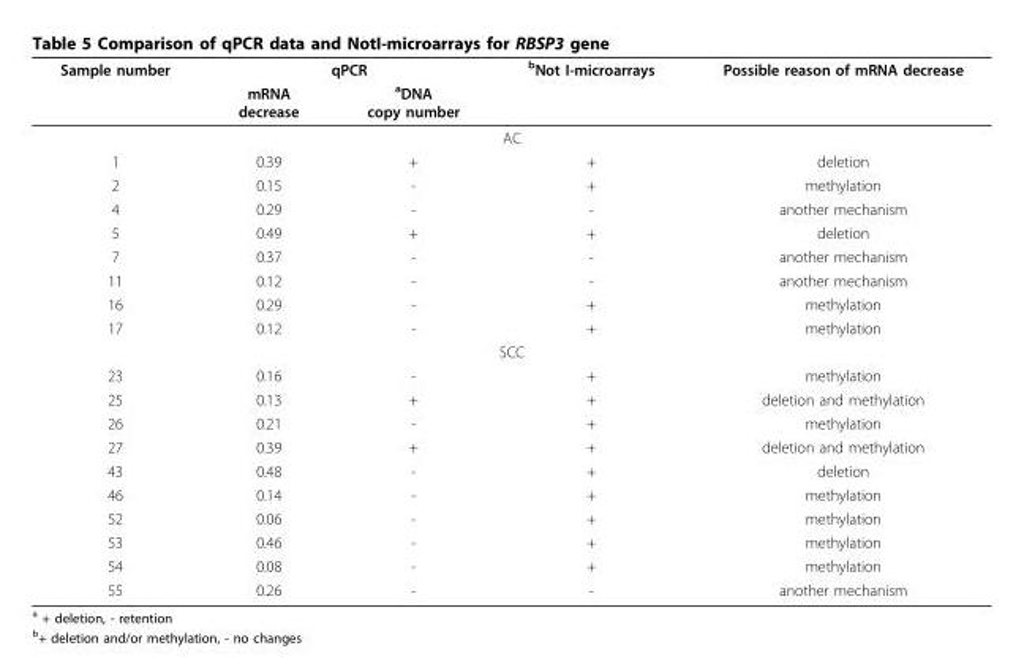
<table><thead><tr><td rowspan="2">Sample number</td><td colspan="2">qPCR</td><td rowspan="2"><sup>b</sup>Not I-microarrays</td><td rowspan="2">Possible reason of mRNA decrease</td></tr><tr><td>mRNA decrease</td><td><sup>a</sup>DNA copy number</td></tr></thead><tbody><tr><td colspan="5">AC</td></tr><tr><td>1</td><td>0.39</td><td>+</td><td>+</td><td>deletion</td></tr><tr><td>2</td><td>0.15</td><td>-</td><td>+</td><td>methylation</td></tr><tr><td>4</td><td>0.29</td><td>-</td><td>-</td><td>another mechanism</td></tr><tr><td>5</td><td>0.49</td><td>+</td><td>+</td><td>deletion</td></tr><tr><td>7</td><td>0.37</td><td>-</td><td>-</td><td>another mechanism</td></tr><tr><td>11</td><td>0.12</td><td>-</td><td>-</td><td>another mechanism</td></tr><tr><td>16</td><td>0.29</td><td>-</td><td>+</td><td>methylation</td></tr><tr><td>17</td><td>0.12</td><td>-</td><td>+</td><td>methylation</td></tr><tr><td colspan="5">SCC</td></tr><tr><td>23</td><td>0.16</td><td>-</td><td>+</td><td>methylation</td></tr><tr><td>25</td><td>0.13</td><td>+</td><td>+</td><td>deletion and methylation</td></tr><tr><td>26</td><td>0.21</td><td>-</td><td>+</td><td>methylation</td></tr><tr><td>27</td><td>0.39</td><td>+</td><td>+</td><td>deletion and methylation</td></tr><tr><td>43</td><td>0.48</td><td>-</td><td>+</td><td>deletion</td></tr><tr><td>46</td><td>0.14</td><td>-</td><td>+</td><td>methylation</td></tr><tr><td>52</td><td>0.06</td><td>-</td><td>+</td><td>methylation</td></tr><tr><td>53</td><td>0.46</td><td>-</td><td>+</td><td>methylation</td></tr><tr><td>54</td><td>0.08</td><td>-</td><td>+</td><td>methylation</td></tr><tr><td>55</td><td>0.26</td><td>-</td><td>-</td><td>another mechanism</td></tr></tbody></table>